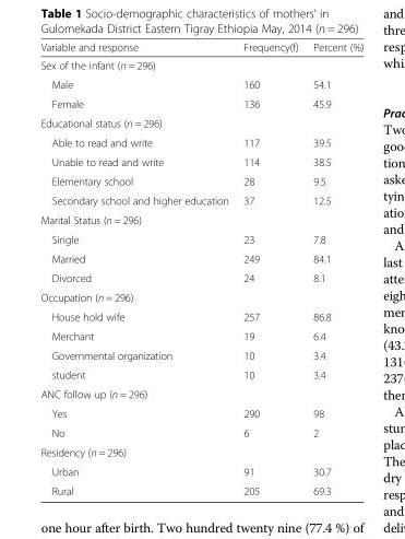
<table><thead><tr><td>Variable and response</td><td>Frequency(f)</td><td>Percent (%)</td></tr></thead><tbody><tr><td colspan="3">Sex of the infant (n = 296)</td></tr><tr><td>Male</td><td>160</td><td>54.1</td></tr><tr><td>Female</td><td>136</td><td>45.9</td></tr><tr><td colspan="3">Educational status (n = 296)</td></tr><tr><td>Able to read and write</td><td>117</td><td>39.5</td></tr><tr><td>Unable to read and write</td><td>114</td><td>38.5</td></tr><tr><td>Elementary school</td><td>28</td><td>9.5</td></tr><tr><td>Secondary school and higher education</td><td>37</td><td>12.5</td></tr><tr><td colspan="3">Marital Status (n = 296)</td></tr><tr><td>Single</td><td>23</td><td>7.8</td></tr><tr><td>Married</td><td>249</td><td>84.1</td></tr><tr><td>Divorced</td><td>24</td><td>8.1</td></tr><tr><td colspan="3">Occupation (n = 296)</td></tr><tr><td>House hold wife</td><td>257</td><td>86.8</td></tr><tr><td>Merchant</td><td>19</td><td>6.4</td></tr><tr><td>Governmental organization</td><td>10</td><td>3.4</td></tr><tr><td>student</td><td>10</td><td>3.4</td></tr><tr><td colspan="3">ANC follow up (n = 296)</td></tr><tr><td>Yes</td><td>290</td><td>98</td></tr><tr><td>No</td><td>6</td><td>2</td></tr><tr><td colspan="3">Residency (n = 296)</td></tr><tr><td>Urban</td><td>91</td><td>30.7</td></tr><tr><td>Rural</td><td>205</td><td>69.3</td></tr></tbody></table>